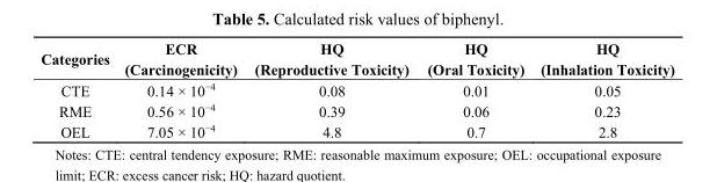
<table><thead><tr><td>Categories</td><td>ECR (Carcinogenicity)</td><td>HQ (Reproductive Toxicity)</td><td>HQ (Oral Toxicity)</td><td>HQ (Inhalation Toxicity)</td></tr></thead><tbody><tr><td>CTE</td><td>0.14 × 10<sup>−4</sup></td><td>0.08</td><td>0.01</td><td>0.05</td></tr><tr><td>RME</td><td>0.56 × 10<sup>−4</sup></td><td>0.39</td><td>0.06</td><td>0.23</td></tr><tr><td>OEL</td><td>7.05 × 10<sup>−4</sup></td><td>4.8</td><td>0.7</td><td>2.8</td></tr></tbody></table>